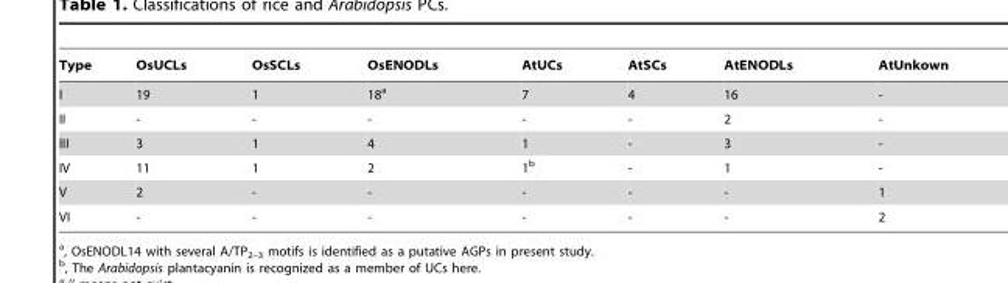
<table><thead><tr><td>Type</td><td>OsUCLs</td><td>OsSCLs</td><td>OsENODLs</td><td>AtUCs</td><td>AtSCs</td><td>AtENODLs</td><td>AtUnkown</td></tr></thead><tbody><tr><td>I</td><td>19</td><td>1</td><td>18<sup>a</sup></td><td>7</td><td>4</td><td>16</td><td>-</td></tr><tr><td>II</td><td>-</td><td>-</td><td>-</td><td>-</td><td>-</td><td>2</td><td>-</td></tr><tr><td>III</td><td>3</td><td>1</td><td>4</td><td>1</td><td>-</td><td>3</td><td>-</td></tr><tr><td>IV</td><td>11</td><td>1</td><td>2</td><td>1<sup>b</sup></td><td>-</td><td>1</td><td>-</td></tr><tr><td>V</td><td>2</td><td>-</td><td>-</td><td>-</td><td>-</td><td>-</td><td>1</td></tr><tr><td>VI</td><td>-</td><td>-</td><td>-</td><td>-</td><td>-</td><td>-</td><td>2</td></tr></tbody></table>